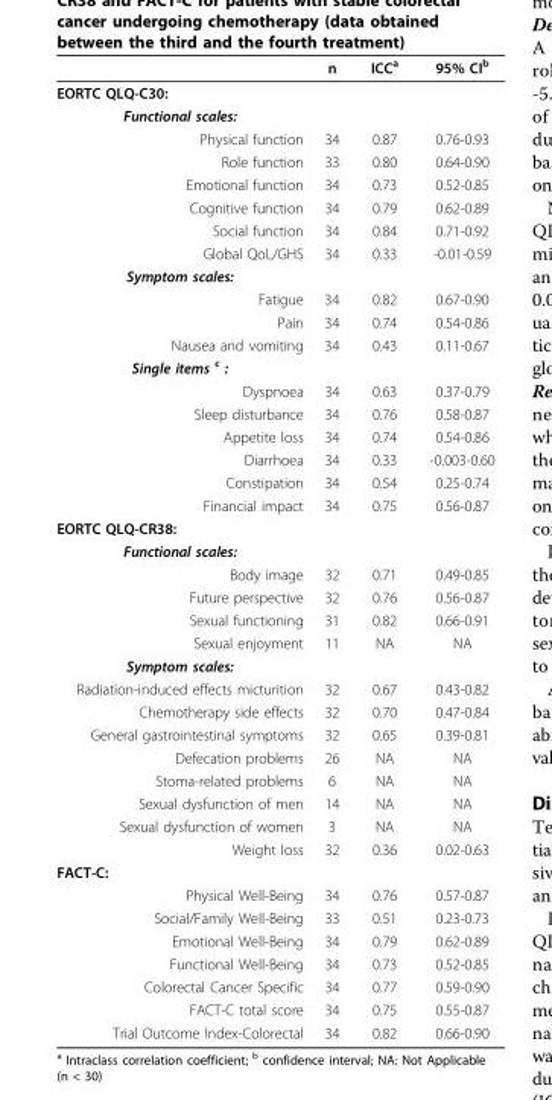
<table><thead><tr><td></td><td>n</td><td>ICC<sup>a</sup></td><td>95% CI<sup>b</sup></td></tr></thead><tbody><tr><td colspan="4">EORTC QLQ-C30:</td></tr><tr><td colspan="4">Functional scales:</td></tr><tr><td>Physical function</td><td>34</td><td>0.87</td><td>0.76-0.93</td></tr><tr><td>Role function</td><td>33</td><td>0.80</td><td>0.64-0.90</td></tr><tr><td>Emotional function</td><td>34</td><td>0.73</td><td>0.52-0.85</td></tr><tr><td>Cognitive function</td><td>34</td><td>0.79</td><td>0.62-0.89</td></tr><tr><td>Social function</td><td>34</td><td>0.84</td><td>0.71-0.92</td></tr><tr><td>Global QoL/GHS</td><td>34</td><td>0.33</td><td>-0.01-0.59</td></tr><tr><td colspan="4">Symptom scales:</td></tr><tr><td>Fatigue</td><td>34</td><td>0.82</td><td>0.67-0.90</td></tr><tr><td>Pain</td><td>34</td><td>0.74</td><td>0.54-0.86</td></tr><tr><td>Nausea and vomiting</td><td>34</td><td>0.43</td><td>0.11-0.67</td></tr><tr><td colspan="4">Single items <sup>c</sup> :</td></tr><tr><td>Dyspnoea</td><td>34</td><td>0.63</td><td>0.37-0.79</td></tr><tr><td>Sleep disturbance</td><td>34</td><td>0.76</td><td>0.58-0.87</td></tr><tr><td>Appetite loss</td><td>34</td><td>0.74</td><td>0.54-0.86</td></tr><tr><td>Diarrhoea</td><td>34</td><td>0.33</td><td>-0.003-0.60</td></tr><tr><td>Constipation</td><td>34</td><td>0.54</td><td>0.25-0.74</td></tr><tr><td>Financial impact</td><td>34</td><td>0.75</td><td>0.56-0.87</td></tr><tr><td colspan="4">EORTC QLQ-CR38:</td></tr><tr><td colspan="4">Functional scales:</td></tr><tr><td>Body image</td><td>32</td><td>0.71</td><td>0.49-0.85</td></tr><tr><td>Future perspective</td><td>32</td><td>0.76</td><td>0.56-0.87</td></tr><tr><td>Sexual functioning</td><td>31</td><td>0.82</td><td>0.66-0.91</td></tr><tr><td>Sexual enjoyment</td><td>11</td><td>NA</td><td>NA</td></tr><tr><td colspan="4">Symptom scales:</td></tr><tr><td>Radiation-induced effects micturition</td><td>32</td><td>0.67</td><td>0.43-0.82</td></tr><tr><td>Chemotherapy side effects</td><td>32</td><td>0.70</td><td>0.47-0.84</td></tr><tr><td>General gastrointestinal symptoms</td><td>32</td><td>0.65</td><td>0.39-0.81</td></tr><tr><td>Defecation problems</td><td>26</td><td>NA</td><td>NA</td></tr><tr><td>Stoma-related problems</td><td>6</td><td>NA</td><td>NA</td></tr><tr><td>Sexual dysfunction of men</td><td>14</td><td>NA</td><td>NA</td></tr><tr><td>Sexual dysfunction of women</td><td>3</td><td>NA</td><td>NA</td></tr><tr><td>Weight loss</td><td>32</td><td>0.36</td><td>0.02-0.63</td></tr><tr><td colspan="4">FACT-C:</td></tr><tr><td>Physical Well-Being</td><td>34</td><td>0.76</td><td>0.57-0.87</td></tr><tr><td>Social/Family Well-Being</td><td>33</td><td>0.51</td><td>0.23-0.73</td></tr><tr><td>Emotional Well-Being</td><td>34</td><td>0.79</td><td>0.62-0.89</td></tr><tr><td>Functional Well-Being</td><td>34</td><td>0.73</td><td>0.52-0.85</td></tr><tr><td>Colorectal Cancer Specific</td><td>34</td><td>0.77</td><td>0.59-0.90</td></tr><tr><td>FACT-C total score</td><td>34</td><td>0.75</td><td>0.55-0.87</td></tr><tr><td>Trial Outcome Index-Colorectal</td><td>34</td><td>0.82</td><td>0.66-0.90</td></tr></tbody></table>